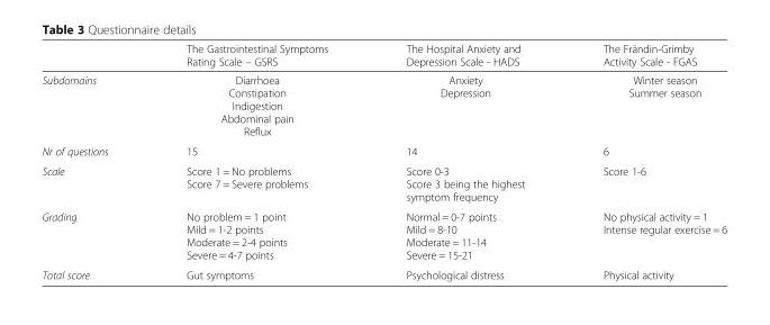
<table><thead><tr><td></td><td>The Gastrointestinal Symptoms Rating Scale – GSRS</td><td>The Hospital Anxiety and Depression Scale - HADS</td><td>The Frändin-Grimby Activity Scale - FGAS</td></tr></thead><tbody><tr><td>Subdomains</td><td>Diarrhoea Constipation Indigestion Abdominal pain Reflux</td><td>Anxiety Depression</td><td>Winter season Summer season</td></tr><tr><td>Nr of questions</td><td>15</td><td>14</td><td>6</td></tr><tr><td>Scale</td><td>Score 1 = No problems Score 7 = Severe problems</td><td>Score 0-3 Score 3 being the highest symptom frequency</td><td>Score 1-6</td></tr><tr><td>Grading</td><td>No problem = 1 point Mild = 1-2 points Moderate = 2-4 points Severe = 4-7 points</td><td>Normal = 0-7 points Mild = 8-10 Moderate = 11-14 Severe = 15-21</td><td>No physical activity = 1 Intense regular exercise = 6</td></tr><tr><td>Total score</td><td>Gut symptoms</td><td>Psychological distress</td><td>Physical activity</td></tr></tbody></table>